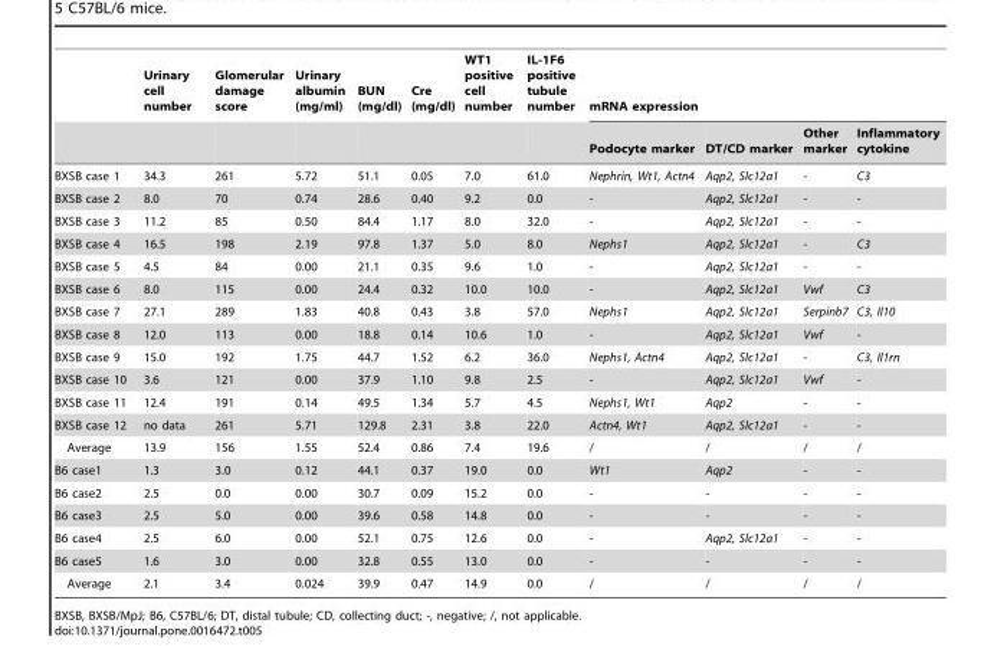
<table><thead><tr><td rowspan="2"></td><td rowspan="2">Urinary cell number</td><td rowspan="2">Glomerular damage score</td><td rowspan="2">Urinary albumin (mg/ml)</td><td rowspan="2">BUN (mg/dl)</td><td rowspan="2">Cre (mg/dl)</td><td rowspan="2">WT1 positive cell number</td><td rowspan="2">IL-1F6 positive tubule number</td><td colspan="4">mRNA expression</td></tr><tr><td>Podocyte marker</td><td>DT/CD marker</td><td>Other marker</td><td>Inflammatory cytokine</td></tr></thead><tbody><tr><td>BXSB case 1</td><td>34.3</td><td>261</td><td>5.72</td><td>51.1</td><td>0.05</td><td>7.0</td><td>61.0</td><td>Nephrin, Wt1, Actn4</td><td>Aqp2, Slc12a1</td><td>-</td><td>C3</td></tr><tr><td>BXSB case 2</td><td>8.0</td><td>70</td><td>0.74</td><td>28.6</td><td>0.40</td><td>9.2</td><td>0.0</td><td>-</td><td>Aqp2, Slc12a1</td><td>-</td><td>-</td></tr><tr><td>BXSB case 3</td><td>11.2</td><td>85</td><td>0.50</td><td>84.4</td><td>1.17</td><td>8.0</td><td>32.0</td><td>-</td><td>Aqp2, Slc12a1</td><td>-</td><td>-</td></tr><tr><td>BXSB case 4</td><td>16.5</td><td>198</td><td>2.19</td><td>97.8</td><td>1.37</td><td>5.0</td><td>8.0</td><td>Nephs1</td><td>Aqp2, Slc12a1</td><td>-</td><td>C3</td></tr><tr><td>BXSB case 5</td><td>4.5</td><td>84</td><td>0.00</td><td>21.1</td><td>0.35</td><td>9.6</td><td>1.0</td><td>-</td><td>Aqp2, Slc12a1</td><td>-</td><td>-</td></tr><tr><td>BXSB case 6</td><td>8.0</td><td>115</td><td>0.00</td><td>24.4</td><td>0.32</td><td>10.0</td><td>10.0</td><td>-</td><td>Aqp2, Slc12a1</td><td>Vwf</td><td>C3</td></tr><tr><td>BXSB case 7</td><td>27.1</td><td>289</td><td>1.83</td><td>40.8</td><td>0.43</td><td>3.8</td><td>57.0</td><td>Nephs1</td><td>Aqp2, Slc12a1</td><td>Serpinb7</td><td>C3, Il10</td></tr><tr><td>BXSB case 8</td><td>12.0</td><td>113</td><td>0.00</td><td>18.8</td><td>0.14</td><td>10.6</td><td>1.0</td><td>-</td><td>Aqp2, Slc12a1</td><td>Vwf</td><td>-</td></tr><tr><td>BXSB case 9</td><td>15.0</td><td>192</td><td>1.75</td><td>44.7</td><td>1.52</td><td>6.2</td><td>36.0</td><td>Nephs1, Actn4</td><td>Aqp2, Slc12a1</td><td>-</td><td>C3, Il1rn</td></tr><tr><td>BXSB case 10</td><td>3.6</td><td>121</td><td>0.00</td><td>37.9</td><td>1.10</td><td>9.8</td><td>2.5</td><td>-</td><td>Aqp2, Slc12a1</td><td>Vwf</td><td>-</td></tr><tr><td>BXSB case 11</td><td>12.4</td><td>191</td><td>0.14</td><td>49.5</td><td>1.34</td><td>5.7</td><td>4.5</td><td>Nephs1, Wt1</td><td>Aqp2</td><td>-</td><td>-</td></tr><tr><td>BXSB case 12</td><td>no data</td><td>261</td><td>5.71</td><td>129.8</td><td>2.31</td><td>3.8</td><td>22.0</td><td>Actn4, Wt1</td><td>Aqp2, Slc12a1</td><td>-</td><td>-</td></tr><tr><td>Average</td><td>13.9</td><td>156</td><td>1.55</td><td>52.4</td><td>0.86</td><td>7.4</td><td>19.6</td><td>/</td><td>/</td><td>/</td><td>/</td></tr><tr><td>B6 case1</td><td>1.3</td><td>3.0</td><td>0.12</td><td>44.1</td><td>0.37</td><td>19.0</td><td>0.0</td><td>Wt1</td><td>Aqp2</td><td>-</td><td>-</td></tr><tr><td>B6 case2</td><td>2.5</td><td>0.0</td><td>0.00</td><td>30.7</td><td>0.09</td><td>15.2</td><td>0.0</td><td>-</td><td>-</td><td>-</td><td>-</td></tr><tr><td>B6 case3</td><td>2.5</td><td>5.0</td><td>0.00</td><td>39.6</td><td>0.58</td><td>14.8</td><td>0.0</td><td>-</td><td>-</td><td>-</td><td>-</td></tr><tr><td>B6 case4</td><td>2.5</td><td>6.0</td><td>0.00</td><td>52.1</td><td>0.75</td><td>12.6</td><td>0.0</td><td>-</td><td>Aqp2, Slc12a1</td><td>-</td><td>-</td></tr><tr><td>B6 case5</td><td>1.6</td><td>3.0</td><td>0.00</td><td>32.8</td><td>0.55</td><td>13.0</td><td>0.0</td><td>-</td><td>-</td><td>-</td><td>-</td></tr><tr><td>Average</td><td>2.1</td><td>3.4</td><td>0.024</td><td>39.9</td><td>0.47</td><td>14.9</td><td>0.0</td><td>/</td><td>/</td><td>/</td><td>/</td></tr></tbody></table>